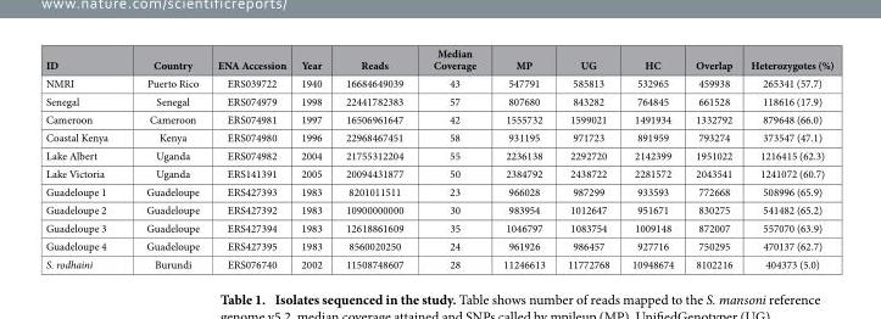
<table><thead><tr><td>ID</td><td>Country</td><td>ENA Accession</td><td>Year</td><td>Reads</td><td>Median Coverage</td><td>MP</td><td>UG</td><td>HC</td><td>Overlap</td><td>Heterozygotes (%)</td></tr></thead><tbody><tr><td>NMRI</td><td>Puerto Rico</td><td>ERS039722</td><td>1940</td><td>16684649039</td><td>43</td><td>547791</td><td>585813</td><td>532965</td><td>459938</td><td>265341 (57.7)</td></tr><tr><td>Senegal</td><td>Senegal</td><td>ERS074979</td><td>1998</td><td>22441782383</td><td>57</td><td>807680</td><td>843282</td><td>764845</td><td>661528</td><td>118616 (17.9)</td></tr><tr><td>Cameroon</td><td>Cameroon</td><td>ERS074981</td><td>1997</td><td>16506961647</td><td>42</td><td>1555732</td><td>1599021</td><td>1491934</td><td>1332792</td><td>879648 (66.0)</td></tr><tr><td>Coastal Kenya</td><td>Kenya</td><td>ERS074980</td><td>1996</td><td>22968467451</td><td>58</td><td>931195</td><td>971723</td><td>891959</td><td>793274</td><td>373547 (47.1)</td></tr><tr><td>Lake Albert</td><td>Uganda</td><td>ERS074982</td><td>2004</td><td>21755312204</td><td>55</td><td>2236138</td><td>2292720</td><td>2142399</td><td>1951022</td><td>1216415 (62.3)</td></tr><tr><td>Lake Victoria</td><td>Uganda</td><td>ERS141391</td><td>2005</td><td>20094431877</td><td>50</td><td>2384792</td><td>2438722</td><td>2281572</td><td>2043541</td><td>1241072 (60.7)</td></tr><tr><td>Guadeloupe 1</td><td>Guadeloupe</td><td>ERS427393</td><td>1983</td><td>8201011511</td><td>23</td><td>966028</td><td>987299</td><td>933593</td><td>772668</td><td>508996 (65.9)</td></tr><tr><td>Guadeloupe 2</td><td>Guadeloupe</td><td>ERS427392</td><td>1983</td><td>10900000000</td><td>30</td><td>983954</td><td>1012647</td><td>951671</td><td>830275</td><td>541482 (65.2)</td></tr><tr><td>Guadeloupe 3</td><td>Guadeloupe</td><td>ERS427394</td><td>1983</td><td>12618861609</td><td>35</td><td>1046797</td><td>1083754</td><td>1009148</td><td>872007</td><td>557070 (63.9)</td></tr><tr><td>Guadeloupe 4</td><td>Guadeloupe</td><td>ERS427395</td><td>1983</td><td>8560020250</td><td>24</td><td>961926</td><td>986457</td><td>927716</td><td>750295</td><td>470137 (62.7)</td></tr><tr><td>S. rodhaini</td><td>Burundi</td><td>ERS076740</td><td>2002</td><td>11508748607</td><td>28</td><td>11246613</td><td>11772768</td><td>10948674</td><td>8102216</td><td>404373 (5.0)</td></tr></tbody></table>